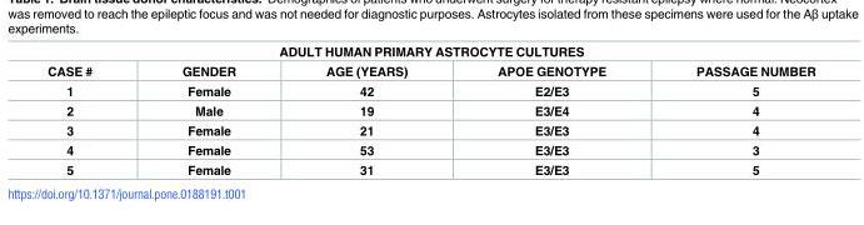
<table><thead><tr><td colspan="5">ADULT HUMAN PRIMARY ASTROCYTE CULTURES</td></tr><tr><td>CASE #</td><td>GENDER</td><td>AGE (YEARS)</td><td>APOE GENOTYPE</td><td>PASSAGE NUMBER</td></tr></thead><tbody><tr><td>1</td><td>Female</td><td>42</td><td>E2/E3</td><td>5</td></tr><tr><td>2</td><td>Male</td><td>19</td><td>E3/E4</td><td>4</td></tr><tr><td>3</td><td>Female</td><td>21</td><td>E3/E3</td><td>4</td></tr><tr><td>4</td><td>Female</td><td>53</td><td>E3/E3</td><td>3</td></tr><tr><td>5</td><td>Female</td><td>31</td><td>E3/E3</td><td>5</td></tr></tbody></table>